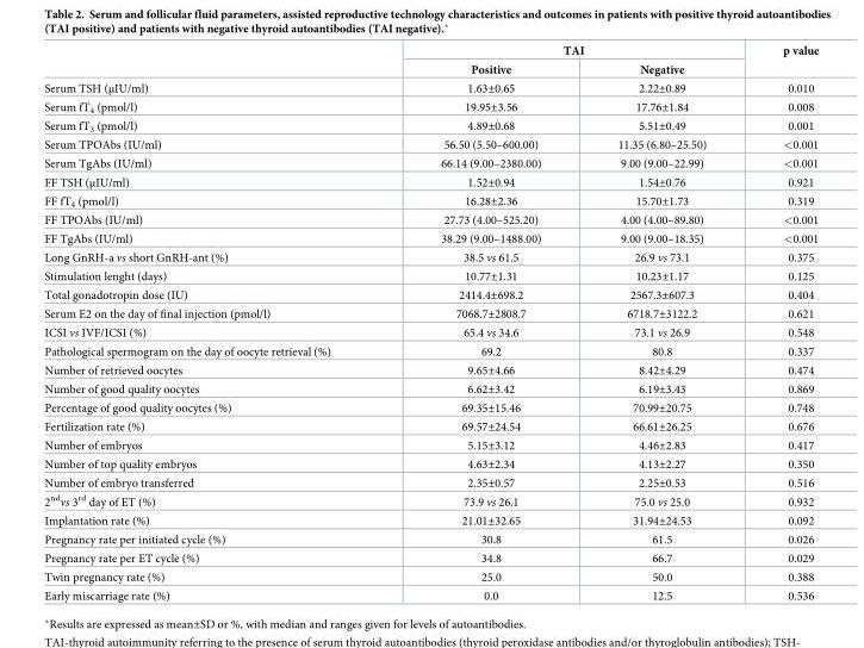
<table><thead><tr><td rowspan="2"></td><td colspan="2">TAI</td><td rowspan="2">p value</td></tr><tr><td>Positive</td><td>Negative</td></tr></thead><tbody><tr><td>Serum TSH (μIU/ml)</td><td>1.63±0.65</td><td>2.22±0.89</td><td>0.010</td></tr><tr><td>Serum fT<sub>4</sub> (pmol/l)</td><td>19.95±3.56</td><td>17.76±1.84</td><td>0.008</td></tr><tr><td>Serum fT<sub>3</sub> (pmol/l)</td><td>4.89±0.68</td><td>5.51±0.49</td><td>0.001</td></tr><tr><td>Serum TPOAbs (IU/ml)</td><td>56.50 (5.50–600.00)</td><td>11.35 (6.80–25.50)</td><td>&lt;0.001</td></tr><tr><td>Serum TgAbs (IU/ml)</td><td>66.14 (9.00–2380.00)</td><td>9.00 (9.00–22.99)</td><td>&lt;0.001</td></tr><tr><td>FF TSH (μIU/ml)</td><td>1.52±0.94</td><td>1.54±0.76</td><td>0.921</td></tr><tr><td>FF fT<sub>4</sub> (pmol/l)</td><td>16.28±2.36</td><td>15.70±1.73</td><td>0.319</td></tr><tr><td>FF TPOAbs (IU/ml)</td><td>27.73 (4.00–525.20)</td><td>4.00 (4.00–89.80)</td><td>&lt;0.001</td></tr><tr><td>FF TgAbs (IU/ml)</td><td>38.29 (9.00–1488.00)</td><td>9.00 (9.00–18.35)</td><td>&lt;0.001</td></tr><tr><td>Long GnRH-a vs short GnRH-ant (%)</td><td>38.5 vs 61.5</td><td>26.9 vs 73.1</td><td>0.375</td></tr><tr><td>Stimulation lenght (days)</td><td>10.77±1.31</td><td>10.23±1.17</td><td>0.125</td></tr><tr><td>Total gonadotropin dose (IU)</td><td>2414.4±698.2</td><td>2567.3±607.3</td><td>0.404</td></tr><tr><td>Serum E2 on the day of final injection (pmol/l)</td><td>7068.7±2808.7</td><td>6718.7±3122.2</td><td>0.621</td></tr><tr><td>ICSI vs IVF/ICSI (%)</td><td>65.4 vs 34.6</td><td>73.1 vs 26.9</td><td>0.548</td></tr><tr><td>Pathological spermogram on the day of oocyte retrieval (%)</td><td>69.2</td><td>80.8</td><td>0.337</td></tr><tr><td>Number of retrieved oocytes</td><td>9.65±4.66</td><td>8.42±4.29</td><td>0.474</td></tr><tr><td>Number of good quality oocytes</td><td>6.62±3.42</td><td>6.19±3.43</td><td>0.869</td></tr><tr><td>Percentage of good quality oocytes (%)</td><td>69.35±15.46</td><td>70.99±20.75</td><td>0.748</td></tr><tr><td>Fertilization rate (%)</td><td>69.57±24.54</td><td>66.61±26.25</td><td>0.676</td></tr><tr><td>Number of embryos</td><td>5.15±3.12</td><td>4.46±2.83</td><td>0.417</td></tr><tr><td>Number of top quality embryos</td><td>4.63±2.34</td><td>4.13±2.27</td><td>0.350</td></tr><tr><td>Number of embryo transferred</td><td>2.35±0.57</td><td>2.25±0.53</td><td>0.516</td></tr><tr><td>2<sup>nd</sup>vs 3<sup>rd</sup> day of ET (%)</td><td>73.9 vs 26.1</td><td>75.0 vs 25.0</td><td>0.932</td></tr><tr><td>Implantation rate (%)</td><td>21.01±32.65</td><td>31.94±24.53</td><td>0.092</td></tr><tr><td>Pregnancy rate per initiated cycle (%)</td><td>30.8</td><td>61.5</td><td>0.026</td></tr><tr><td>Pregnancy rate per ET cycle (%)</td><td>34.8</td><td>66.7</td><td>0.029</td></tr><tr><td>Twin pregnancy rate (%)</td><td>25.0</td><td>50.0</td><td>0.388</td></tr><tr><td>Early miscarriage rate (%)</td><td>0.0</td><td>12.5</td><td>0.536</td></tr></tbody></table>